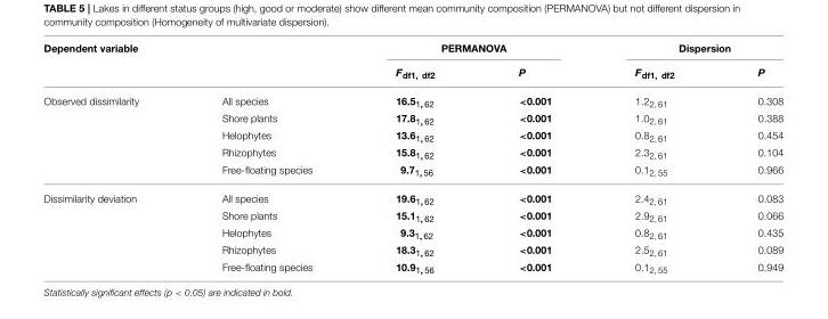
<table><thead><tr><td rowspan="2">Dependent variable</td><td rowspan="2"></td><td colspan="2">PERMANOVA</td><td colspan="2">Dispersion</td></tr><tr><td>F<sub>df1, df2</sub></td><td>P</td><td>F<sub>df1, df2</sub></td><td>P</td></tr></thead><tbody><tr><td rowspan="5">Observed dissimilarity</td><td>All species</td><td>16.5<sub>1, 62</sub></td><td>&lt;0.001</td><td>1.2<sub>2, 61</sub></td><td>0.308</td></tr><tr><td>Shore plants</td><td>17.8<sub>1, 62</sub></td><td>&lt;0.001</td><td>1.0<sub>2, 61</sub></td><td>0.388</td></tr><tr><td>Helophytes</td><td>13.6<sub>1, 62</sub></td><td>&lt;0.001</td><td>0.8<sub>2, 61</sub></td><td>0.454</td></tr><tr><td>Rhizophytes</td><td>15.8<sub>1, 62</sub></td><td>&lt;0.001</td><td>2.3<sub>2, 61</sub></td><td>0.104</td></tr><tr><td>Free-floating species</td><td>9.7<sub>1, 56</sub></td><td>&lt;0.001</td><td>0.1<sub>2, 55</sub></td><td>0.966</td></tr><tr><td rowspan="5">Dissimilarity deviation</td><td>All species</td><td>19.6<sub>1, 62</sub></td><td>&lt;0.001</td><td>2.4<sub>2, 61</sub></td><td>0.083</td></tr><tr><td>Shore plants</td><td>15.1<sub>1, 62</sub></td><td>&lt;0.001</td><td>2.9<sub>2, 61</sub></td><td>0.066</td></tr><tr><td>Helophytes</td><td>9.3<sub>1, 62</sub></td><td>&lt;0.001</td><td>0.8<sub>2, 61</sub></td><td>0.435</td></tr><tr><td>Rhizophytes</td><td>18.3<sub>1, 62</sub></td><td>&lt;0.001</td><td>2.5<sub>2, 61</sub></td><td>0.089</td></tr><tr><td>Free-floating species</td><td>10.9<sub>1, 56</sub></td><td>&lt;0.001</td><td>0.1<sub>2, 55</sub></td><td>0.949</td></tr></tbody></table>